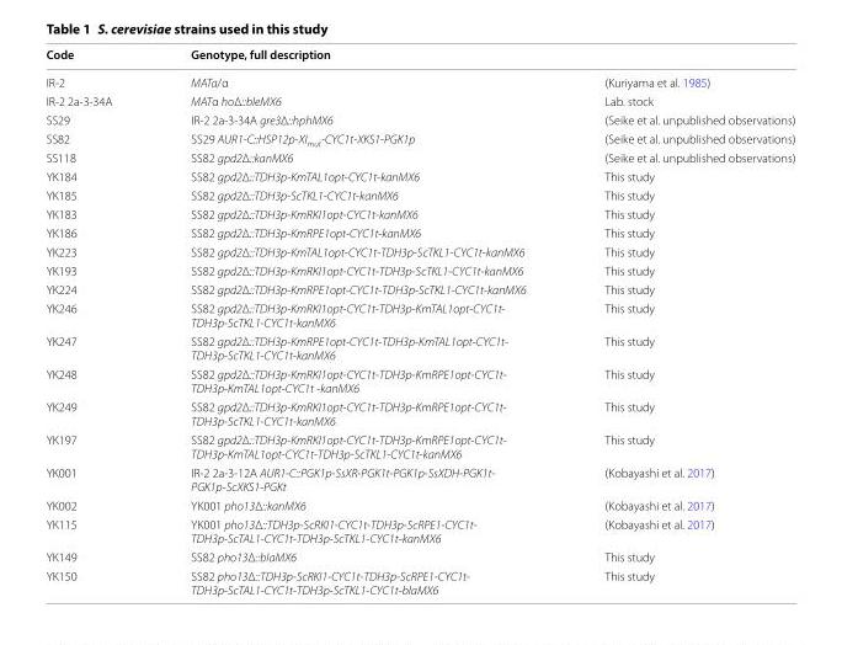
<table><thead><tr><td>Code</td><td>Genotype, full description</td><td></td></tr></thead><tbody><tr><td>IR-2</td><td>MATa/α</td><td>(Kuriyama et al. 1985)</td></tr><tr><td>IR-2 2a-3-34A</td><td>MATα hoΔ::bleMX6</td><td>Lab. stock</td></tr><tr><td>SS29</td><td>IR-2 2a-3-34A gre3Δ::hphMX6</td><td>(Seike et al. unpublished observations)</td></tr><tr><td>SS82</td><td>SS29 AUR1-C::HSP12p-XI<sub>mut</sub>-CYC1t-XKS1-PGK1p</td><td>(Seike et al. unpublished observations)</td></tr><tr><td>SS118</td><td>SS82 gpd2Δ::kanMX6</td><td>(Seike et al. unpublished observations)</td></tr><tr><td>YK184</td><td>SS82 gpd2Δ::TDH3p-KmTAL1opt-CYC1t-kanMX6</td><td>This study</td></tr><tr><td>YK185</td><td>SS82 gpd2Δ::TDH3p-ScTKL1-CYC1t-kanMX6</td><td>This study</td></tr><tr><td>YK183</td><td>SS82 gpd2Δ::TDH3p-KmRKI1opt-CYC1t-kanMX6</td><td>This study</td></tr><tr><td>YK186</td><td>SS82 gpd2Δ::TDH3p-KmRPE1opt-CYC1t-kanMX6</td><td>This study</td></tr><tr><td>YK223</td><td>SS82 gpd2Δ::TDH3p-KmTAL1opt-CYC1t-TDH3p-ScTKL1-CYC1t-kanMX6</td><td>This study</td></tr><tr><td>YK193</td><td>SS82 gpd2Δ::TDH3p-KmRKI1opt-CYC1t-TDH3p-ScTKL1-CYC1t-kanMX6</td><td>This study</td></tr><tr><td>YK224</td><td>SS82 gpd2Δ::TDH3p-KmRPE1opt-CYC1t-TDH3p-ScTKL1-CYC1t-kanMX6</td><td>This study</td></tr><tr><td>YK246</td><td>SS82 gpd2Δ::TDH3p-KmRKI1opt-CYC1t-TDH3p-KmTAL1opt-CYC1t- TDH3p-ScTKL1-CYC1t-kanMX6</td><td>This study</td></tr><tr><td>YK247</td><td>SS82 gpd2Δ::TDH3p-KmRPE1opt-CYC1t-TDH3p-KmTAL1opt-CYC1t- TDH3p-ScTKL1-CYC1t-kanMX6</td><td>This study</td></tr><tr><td>YK248</td><td>SS82 gpd2Δ::TDH3p-KmRKI1opt-CYC1t-TDH3p-KmRPE1opt-CYC1t- TDH3p-KmTAL1opt-CYC1t -kanMX6</td><td>This study</td></tr><tr><td>YK249</td><td>SS82 gpd2Δ::TDH3p-KmRKI1opt-CYC1t-TDH3p-KmRPE1opt-CYC1t- TDH3p-ScTKL1-CYC1t-kanMX6</td><td>This study</td></tr><tr><td>YK197</td><td>SS82 gpd2Δ::TDH3p-KmRKI1opt-CYC1t-TDH3p-KmRPE1opt-CYC1t- TDH3p-KmTAL1opt-CYC1t-TDH3p-ScTKL1-CYC1t-kanMX6</td><td>This study</td></tr><tr><td>YK001</td><td>IR-2 2a-3-12A AUR1-C::PGK1p-SsXR-PGK1t-PGK1p-SsXDH-PGK1t- PGK1p-ScXKS1-PGKt</td><td>(Kobayashi et al. 2017)</td></tr><tr><td>YK002</td><td>YK001 pho13Δ::kanMX6</td><td>(Kobayashi et al. 2017)</td></tr><tr><td>YK115</td><td>YK001 pho13Δ::TDH3p-ScRKI1-CYC1t-TDH3p-ScRPE1-CYC1t- TDH3p-ScTAL1-CYC1t-TDH3p-ScTKL1-CYC1t-kanMX6</td><td>(Kobayashi et al. 2017)</td></tr><tr><td>YK149</td><td>SS82 pho13Δ::blaMX6</td><td>This study</td></tr><tr><td>YK150</td><td>SS82 pho13Δ::TDH3p-ScRKI1-CYC1t-TDH3p-ScRPE1-CYC1t- TDH3p-ScTAL1-CYC1t-TDH3p-ScTKL1-CYC1t-blaMX6</td><td>This study</td></tr></tbody></table>